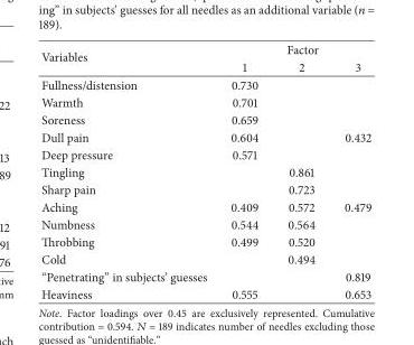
<table><thead><tr><td rowspan="2">Variables</td><td colspan="3">Factor</td></tr><tr><td>1</td><td>2</td><td>3</td></tr></thead><tbody><tr><td>Fullness/distension</td><td>0.730</td><td></td><td></td></tr><tr><td>Warmth</td><td>0.701</td><td></td><td></td></tr><tr><td>Soreness</td><td>0.659</td><td></td><td></td></tr><tr><td>Dull pain</td><td>0.604</td><td></td><td>0.432</td></tr><tr><td>Deep pressure</td><td>0.571</td><td></td><td></td></tr><tr><td>Tingling</td><td></td><td>0.861</td><td></td></tr><tr><td>Sharp pain</td><td></td><td>0.723</td><td></td></tr><tr><td>Aching</td><td>0.409</td><td>0.572</td><td>0.479</td></tr><tr><td>Numbness</td><td>0.544</td><td>0.564</td><td></td></tr><tr><td>Throbbing</td><td>0.499</td><td>0.520</td><td></td></tr><tr><td>Cold</td><td></td><td>0.494</td><td></td></tr><tr><td>“Penetrating” in subjects’ guesses</td><td></td><td></td><td>0.819</td></tr><tr><td>Heaviness</td><td>0.555</td><td></td><td>0.653</td></tr></tbody></table>